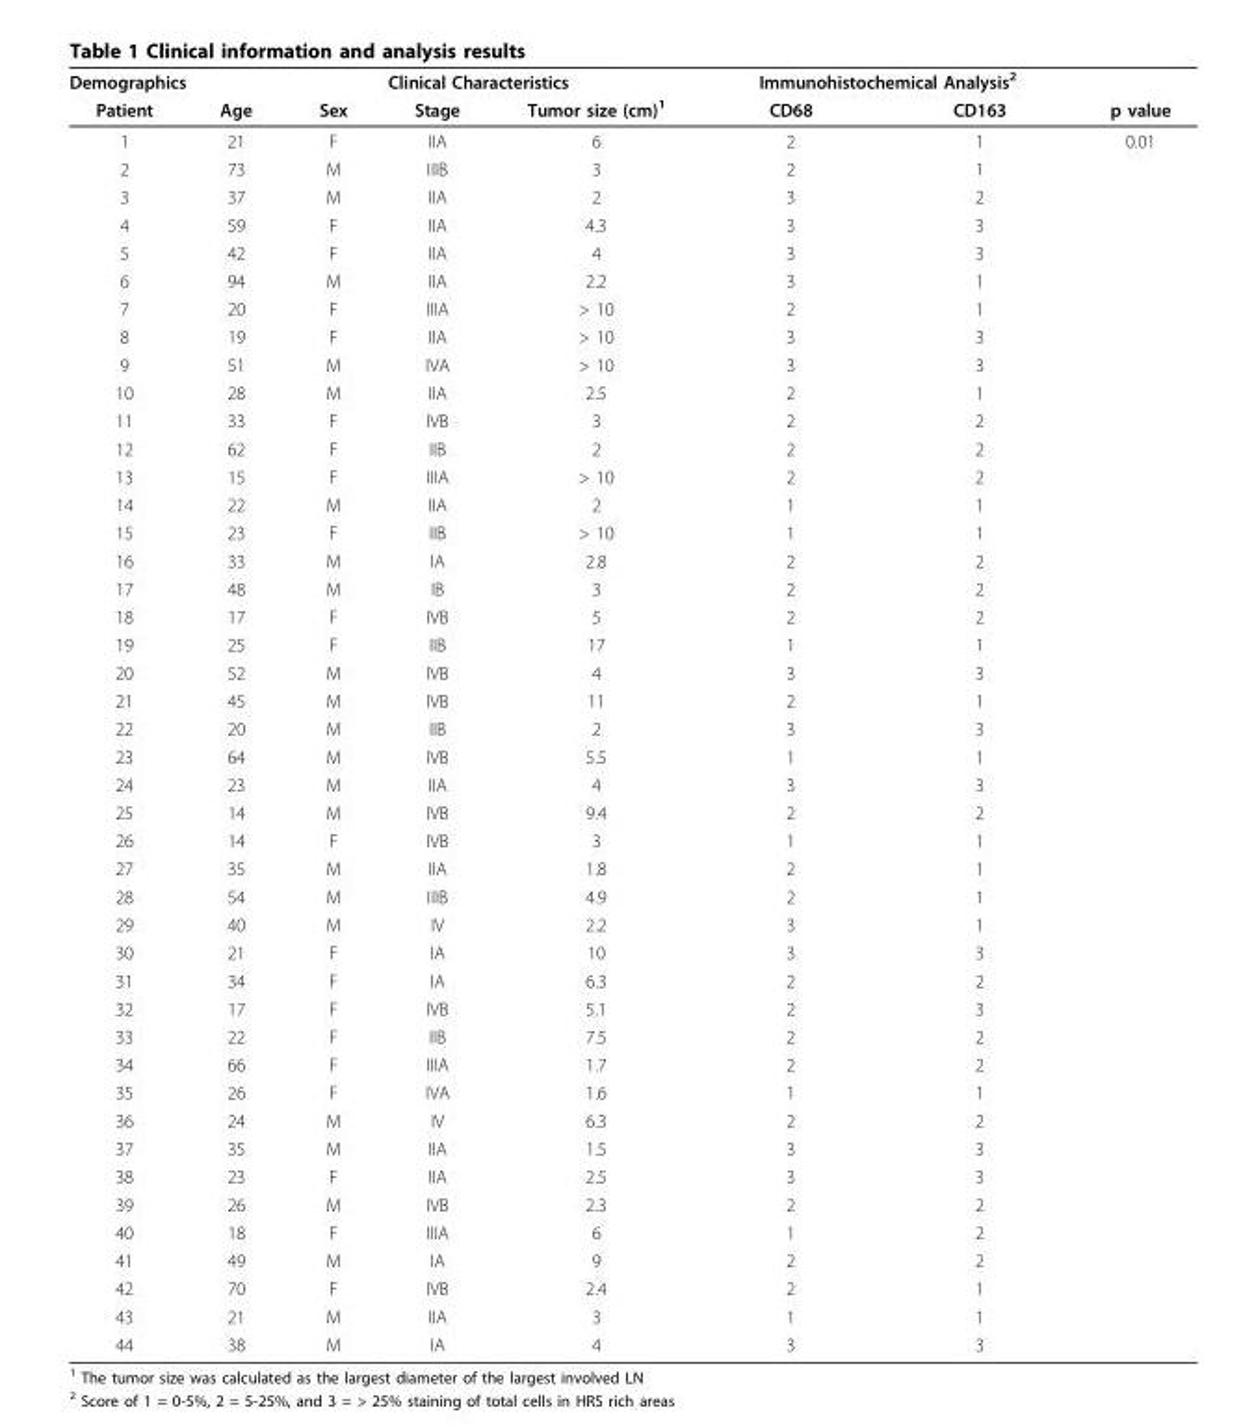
<table><thead><tr><td colspan="3">Demographics</td><td colspan="2">Clinical Characteristics</td><td colspan="2">Immunohistochemical Analysis<sup>2</sup></td><td rowspan="2">p value</td></tr><tr><td>Patient</td><td>Age</td><td>Sex</td><td>Stage</td><td>Tumor size (cm)<sup>1</sup></td><td>CD68</td><td>CD163</td></tr></thead><tbody><tr><td>1</td><td>21</td><td>F</td><td>IIA</td><td>6</td><td>2</td><td>1</td><td>0.01</td></tr><tr><td>2</td><td>73</td><td>M</td><td>IIIB</td><td>3</td><td>2</td><td>1</td><td></td></tr><tr><td>3</td><td>37</td><td>M</td><td>IIA</td><td>2</td><td>3</td><td>2</td><td></td></tr><tr><td>4</td><td>59</td><td>F</td><td>IIA</td><td>4.3</td><td>3</td><td>3</td><td></td></tr><tr><td>5</td><td>42</td><td>F</td><td>IIA</td><td>4</td><td>3</td><td>3</td><td></td></tr><tr><td>6</td><td>94</td><td>M</td><td>IIA</td><td>2.2</td><td>3</td><td>1</td><td></td></tr><tr><td>7</td><td>20</td><td>F</td><td>IIIA</td><td>&gt; 10</td><td>2</td><td>1</td><td></td></tr><tr><td>8</td><td>19</td><td>F</td><td>IIA</td><td>&gt; 10</td><td>3</td><td>3</td><td></td></tr><tr><td>9</td><td>51</td><td>M</td><td>IVA</td><td>&gt; 10</td><td>3</td><td>3</td><td></td></tr><tr><td>10</td><td>28</td><td>M</td><td>IIA</td><td>2.5</td><td>2</td><td>1</td><td></td></tr><tr><td>11</td><td>33</td><td>F</td><td>IVB</td><td>3</td><td>2</td><td>2</td><td></td></tr><tr><td>12</td><td>62</td><td>F</td><td>IIB</td><td>2</td><td>2</td><td>2</td><td></td></tr><tr><td>13</td><td>15</td><td>F</td><td>IIIA</td><td>&gt; 10</td><td>2</td><td>2</td><td></td></tr><tr><td>14</td><td>22</td><td>M</td><td>IIA</td><td>2</td><td>1</td><td>1</td><td></td></tr><tr><td>15</td><td>23</td><td>F</td><td>IIB</td><td>&gt; 10</td><td>1</td><td>1</td><td></td></tr><tr><td>16</td><td>33</td><td>M</td><td>IA</td><td>2.8</td><td>2</td><td>2</td><td></td></tr><tr><td>17</td><td>48</td><td>M</td><td>IB</td><td>3</td><td>2</td><td>2</td><td></td></tr><tr><td>18</td><td>17</td><td>F</td><td>IVB</td><td>5</td><td>2</td><td>2</td><td></td></tr><tr><td>19</td><td>25</td><td>F</td><td>IIB</td><td>17</td><td>1</td><td>1</td><td></td></tr><tr><td>20</td><td>52</td><td>M</td><td>IVB</td><td>4</td><td>3</td><td>3</td><td></td></tr><tr><td>21</td><td>45</td><td>M</td><td>IVB</td><td>11</td><td>2</td><td>1</td><td></td></tr><tr><td>22</td><td>20</td><td>M</td><td>IIB</td><td>2</td><td>3</td><td>3</td><td></td></tr><tr><td>23</td><td>64</td><td>M</td><td>IVB</td><td>5.5</td><td>1</td><td>1</td><td></td></tr><tr><td>24</td><td>23</td><td>M</td><td>IIA</td><td>4</td><td>3</td><td>3</td><td></td></tr><tr><td>25</td><td>14</td><td>M</td><td>IVB</td><td>9.4</td><td>2</td><td>2</td><td></td></tr><tr><td>26</td><td>14</td><td>F</td><td>IVB</td><td>3</td><td>1</td><td>1</td><td></td></tr><tr><td>27</td><td>35</td><td>M</td><td>IIA</td><td>1.8</td><td>2</td><td>1</td><td></td></tr><tr><td>28</td><td>54</td><td>M</td><td>IIIB</td><td>4.9</td><td>2</td><td>1</td><td></td></tr><tr><td>29</td><td>40</td><td>M</td><td>IV</td><td>2.2</td><td>3</td><td>1</td><td></td></tr><tr><td>30</td><td>21</td><td>F</td><td>IA</td><td>10</td><td>3</td><td>3</td><td></td></tr><tr><td>31</td><td>34</td><td>F</td><td>IA</td><td>6.3</td><td>2</td><td>2</td><td></td></tr><tr><td>32</td><td>17</td><td>F</td><td>IVB</td><td>5.1</td><td>2</td><td>3</td><td></td></tr><tr><td>33</td><td>22</td><td>F</td><td>IIB</td><td>7.5</td><td>2</td><td>2</td><td></td></tr><tr><td>34</td><td>66</td><td>F</td><td>IIIA</td><td>1.7</td><td>2</td><td>2</td><td></td></tr><tr><td>35</td><td>26</td><td>F</td><td>IVA</td><td>1.6</td><td>1</td><td>1</td><td></td></tr><tr><td>36</td><td>24</td><td>M</td><td>IV</td><td>6.3</td><td>2</td><td>2</td><td></td></tr><tr><td>37</td><td>35</td><td>M</td><td>IIA</td><td>1.5</td><td>3</td><td>3</td><td></td></tr><tr><td>38</td><td>23</td><td>F</td><td>IIA</td><td>2.5</td><td>3</td><td>3</td><td></td></tr><tr><td>39</td><td>26</td><td>M</td><td>IVB</td><td>2.3</td><td>2</td><td>2</td><td></td></tr><tr><td>40</td><td>18</td><td>F</td><td>IIIA</td><td>6</td><td>1</td><td>2</td><td></td></tr><tr><td>41</td><td>49</td><td>M</td><td>IA</td><td>9</td><td>2</td><td>2</td><td></td></tr><tr><td>42</td><td>70</td><td>F</td><td>IVB</td><td>2.4</td><td>2</td><td>1</td><td></td></tr><tr><td>43</td><td>21</td><td>M</td><td>IIA</td><td>3</td><td>1</td><td>1</td><td></td></tr><tr><td>44</td><td>38</td><td>M</td><td>IA</td><td>4</td><td>3</td><td>3</td><td></td></tr></tbody></table>